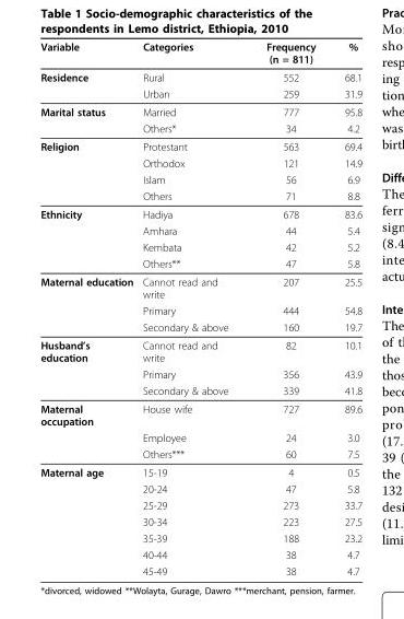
<table><thead><tr><td>Variable</td><td>Categories</td><td>Frequency (n = 811)</td><td>%</td></tr></thead><tbody><tr><td rowspan="2">Residence</td><td>Rural</td><td>552</td><td>68.1</td></tr><tr><td>Urban</td><td>259</td><td>31.9</td></tr><tr><td rowspan="2">Marital status</td><td>Married</td><td>777</td><td>95.8</td></tr><tr><td>Others*</td><td>34</td><td>4.2</td></tr><tr><td rowspan="4">Religion</td><td>Protestant</td><td>563</td><td>69.4</td></tr><tr><td>Orthodox</td><td>121</td><td>14.9</td></tr><tr><td>Islam</td><td>56</td><td>6.9</td></tr><tr><td>Others</td><td>71</td><td>8.8</td></tr><tr><td rowspan="4">Ethnicity</td><td>Hadiya</td><td>678</td><td>83.6</td></tr><tr><td>Amhara</td><td>44</td><td>5.4</td></tr><tr><td>Kembata</td><td>42</td><td>5.2</td></tr><tr><td>Others**</td><td>47</td><td>5.8</td></tr><tr><td rowspan="3">Maternal education</td><td>Cannot read and write</td><td>207</td><td>25.5</td></tr><tr><td>Primary</td><td>444</td><td>54.8</td></tr><tr><td>Secondary &amp; above</td><td>160</td><td>19.7</td></tr><tr><td rowspan="3">Husband’s education</td><td>Cannot read and write</td><td>82</td><td>10.1</td></tr><tr><td>Primary</td><td>356</td><td>43.9</td></tr><tr><td>Secondary &amp; above</td><td>339</td><td>41.8</td></tr><tr><td rowspan="3">Maternal occupation</td><td>House wife</td><td>727</td><td>89.6</td></tr><tr><td>Employee</td><td>24</td><td>3.0</td></tr><tr><td>Others***</td><td>60</td><td>7.5</td></tr><tr><td rowspan="7">Maternal age</td><td>15-19</td><td>4</td><td>0.5</td></tr><tr><td>20-24</td><td>47</td><td>5.8</td></tr><tr><td>25-29</td><td>273</td><td>33.7</td></tr><tr><td>30-34</td><td>223</td><td>27.5</td></tr><tr><td>35-39</td><td>188</td><td>23.2</td></tr><tr><td>40-44</td><td>38</td><td>4.7</td></tr><tr><td>45-49</td><td>38</td><td>4.7</td></tr></tbody></table>